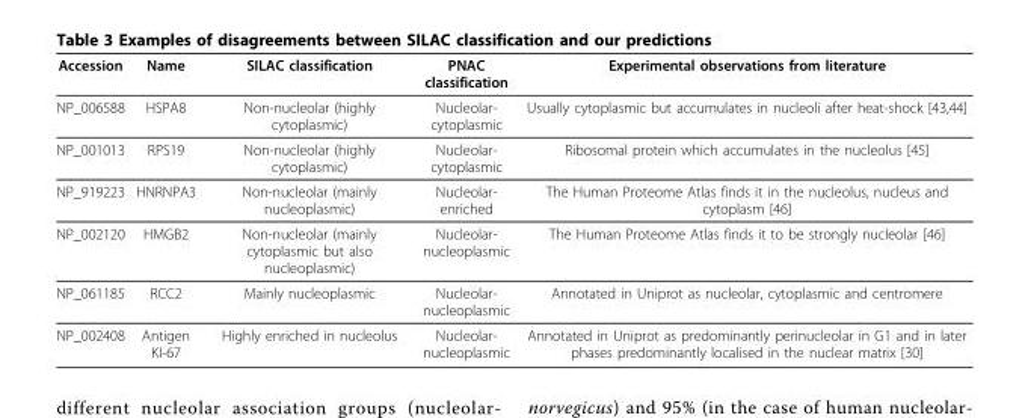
<table><thead><tr><td>Accession</td><td>Name</td><td>SILAC classification</td><td>PNAC classification</td><td>Experimental observations from literature</td></tr></thead><tbody><tr><td>NP_006588</td><td>HSPA8</td><td>Non-nucleolar (highly cytoplasmic)</td><td>Nucleolar- cytoplasmic</td><td>Usually cytoplasmic but accumulates in nucleoli after heat-shock [43,44]</td></tr><tr><td>NP_001013</td><td>RPS19</td><td>Non-nucleolar (highly cytoplasmic)</td><td>Nucleolar- cytoplasmic</td><td>Ribosomal protein which accumulates in the nucleolus [45]</td></tr><tr><td>NP_919223</td><td>HNRNPA3</td><td>Non-nucleolar (mainly nucleoplasmic)</td><td>Nucleolar- enriched</td><td>The Human Proteome Atlas finds it in the nucleolus, nucleus and cytoplasm [46]</td></tr><tr><td>NP_002120</td><td>HMGB2</td><td>Non-nucleolar (mainly cytoplasmic but also nucleoplasmic)</td><td>Nucleolar- nucleoplasmic</td><td>The Human Proteome Atlas finds it to be strongly nucleolar [46]</td></tr><tr><td>NP_061185</td><td>RCC2</td><td>Mainly nucleoplasmic</td><td>Nucleolar- nucleoplasmic</td><td>Annotated in Uniprot as nucleolar, cytoplasmic and centromere</td></tr><tr><td>NP_002408</td><td>Antigen KI-67</td><td>Highly enriched in nucleolus</td><td>Nucleolar- nucleoplasmic</td><td>Annotated in Uniprot as predominantly perinucleolar in G1 and in later phases predominantly localised in the nuclear matrix [30]</td></tr></tbody></table>